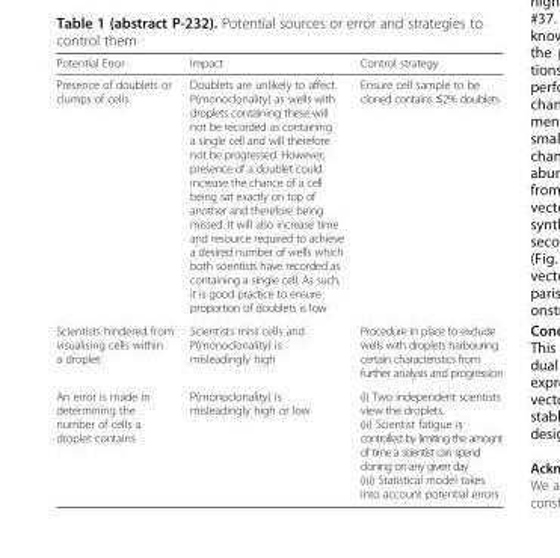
<table><thead><tr><td>Potential Error</td><td>Impact</td><td>Control strategy</td></tr></thead><tbody><tr><td>Presence of doublets or clumps of cells</td><td>Doublets are unlikely to affect P(monoclonality) as wells with droplets containing these will not be recorded as containing a single cell and will therefore not be progressed. However, presence of a doublet could increase the chance of a cell being sat exactly on top of another and therefore being missed. It will also increase time and resource required to achieve a desired number of wells which both scientists have recorded as containing a single cell. As such, it is good practice to ensure proportion of doublets is low</td><td>Ensure cell sample to be cloned contains ≤2% doublets</td></tr><tr><td>Scientists hindered from visualising cells within a droplet</td><td>Scientists miss cells and P(monoclonality) is misleadingly high</td><td>Procedure in place to exclude wells with droplets harbouring certain characteristics from further analysis and progression</td></tr><tr><td>An error is made in determining the number of cells a droplet contains</td><td>P(monoclonality) is misleadingly high or low</td><td>(i) Two independent scientists view the droplets (ii) Scientist fatigue is controlled by limiting the amount of time a scientist can spend cloning on any given day (iii) Statistical model takes into account potential errors</td></tr></tbody></table>